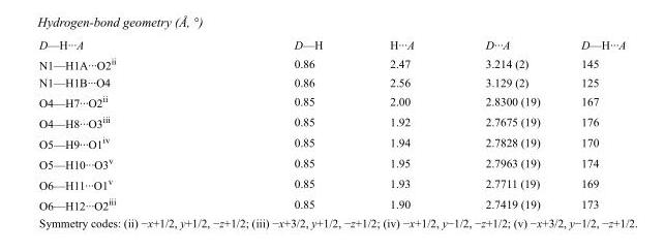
<table><tbody><tr><td>D—H···A</td><td>D—H</td><td>H···A</td><td>D···A</td><td>D—H···A</td></tr><tr><td>N1—H1A···O2<sup>ii</sup></td><td>0.86</td><td>2.47</td><td>3.214 (2)</td><td>145</td></tr><tr><td>N1—H1B···O4</td><td>0.86</td><td>2.56</td><td>3.129 (2)</td><td>125</td></tr><tr><td>O4—H7···O2<sup>ii</sup></td><td>0.85</td><td>2.00</td><td>2.8300 (19)</td><td>167</td></tr><tr><td>O4—H8···O3<sup>iii</sup></td><td>0.85</td><td>1.92</td><td>2.7675 (19)</td><td>176</td></tr><tr><td>O5—H9···O1<sup>iv</sup></td><td>0.85</td><td>1.94</td><td>2.7828 (19)</td><td>170</td></tr><tr><td>O5—H10···O3<sup>v</sup></td><td>0.85</td><td>1.95</td><td>2.7963 (19)</td><td>174</td></tr><tr><td>O6—H11···O1<sup>v</sup></td><td>0.85</td><td>1.93</td><td>2.7711 (19)</td><td>169</td></tr><tr><td>O6—H12···O2<sup>iii</sup></td><td>0.85</td><td>1.90</td><td>2.7419 (19)</td><td>173</td></tr></tbody></table>